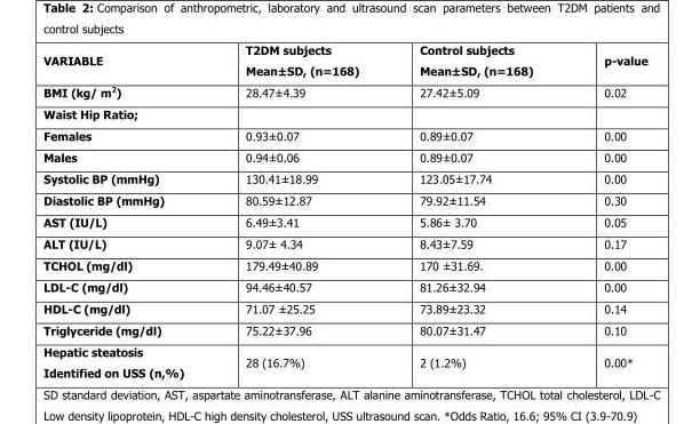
<table><thead><tr><td>VARIABLE</td><td>T2DM subjects Mean±SD, (n=168)</td><td>Control subjects Mean±SD, (n=168)</td><td>p-value</td></tr></thead><tbody><tr><td>BMI (kg/ m<sup>2</sup>)</td><td>28.47±4.39</td><td>27.42±5.09</td><td>0.02</td></tr><tr><td colspan="4">Waist Hip Ratio;</td></tr><tr><td>Females</td><td>0.93±0.07</td><td>0.89±0.07</td><td>0.00</td></tr><tr><td>Males</td><td>0.94±0.06</td><td>0.89±0.07</td><td>0.00</td></tr><tr><td>Systolic BP (mmHg)</td><td>130.41±18.99</td><td>123.05±17.74</td><td>0.00</td></tr><tr><td>Diastolic BP (mmHg)</td><td>80.59±12.87</td><td>79.92±11.54</td><td>0.30</td></tr><tr><td>AST (IU/L)</td><td>6.49±3.41</td><td>5.86± 3.70</td><td>0.05</td></tr><tr><td>ALT (IU/L)</td><td>9.07± 4.34</td><td>8.43±7.59</td><td>0.17</td></tr><tr><td>TCHOL (mg/dl)</td><td>179.49±40.89</td><td>170 ±31.69.</td><td>0.00</td></tr><tr><td>LDL-C (mg/dl)</td><td>94.46±40.57</td><td>81.26±32.94</td><td>0.00</td></tr><tr><td>HDL-C (mg/dl)</td><td>71.07 ±25.25</td><td>73.89±23.32</td><td>0.14</td></tr><tr><td>Triglyceride (mg/dl)</td><td>75.22±37.96</td><td>80.07±31.47</td><td>0.10</td></tr><tr><td>Hepatic steatosis Identified on USS (n,%)</td><td>28 (16.7%)</td><td>2 (1.2%)</td><td>0.00*</td></tr></tbody></table>